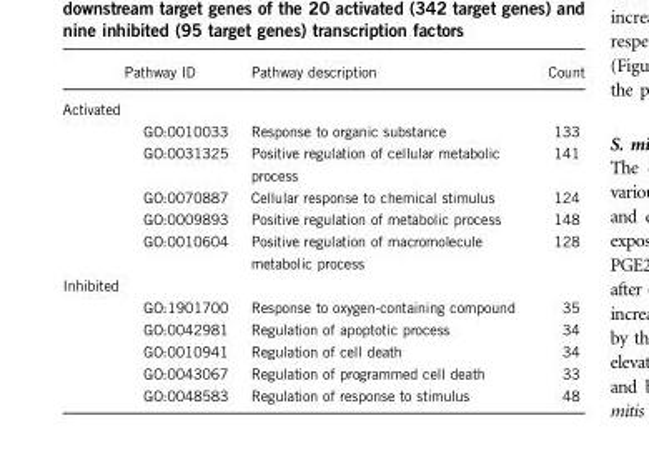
<table><thead><tr><td></td><td>Pathway ID</td><td>Pathway description</td><td>Count</td></tr></thead><tbody><tr><td colspan="4">Activated</td></tr><tr><td></td><td>GO:0010033</td><td>Response to organic substance</td><td>133</td></tr><tr><td></td><td>GO:0031325</td><td>Positive regulation of cellular metabolic process</td><td>141</td></tr><tr><td></td><td>GO:0070887</td><td>Cellular response to chemical stimulus</td><td>124</td></tr><tr><td></td><td>GO:0009893</td><td>Positive regulation of metabolic process</td><td>148</td></tr><tr><td></td><td>GO:0010604</td><td>Positive regulation of macromolecule metabolic process</td><td>128</td></tr><tr><td colspan="4">Inhibited</td></tr><tr><td></td><td>GO:1901700</td><td>Response to oxygen-containing compound</td><td>35</td></tr><tr><td></td><td>GO:0042981</td><td>Regulation of apoptotic process</td><td>34</td></tr><tr><td></td><td>GO:0010941</td><td>Regulation of cell death</td><td>34</td></tr><tr><td></td><td>GO:0043067</td><td>Regulation of programmed cell death</td><td>33</td></tr><tr><td></td><td>GO:0048583</td><td>Regulation of response to stimulus</td><td>48</td></tr></tbody></table>